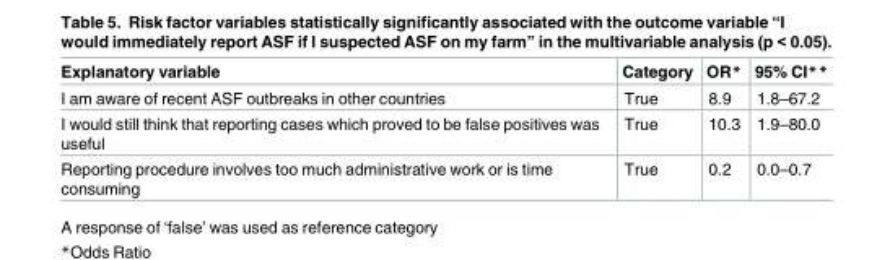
<table><thead><tr><td>Explanatory variable</td><td>Category</td><td>OR*</td><td>95% CI**</td></tr></thead><tbody><tr><td>I am aware of recent ASF outbreaks in other countries</td><td>True</td><td>8.9</td><td>1.8–67.2</td></tr><tr><td>I would still think that reporting cases which proved to be false positives was useful</td><td>True</td><td>10.3</td><td>1.9–80.0</td></tr><tr><td>Reporting procedure involves too much administrative work or is time consuming</td><td>True</td><td>0.2</td><td>0.0–0.7</td></tr></tbody></table>